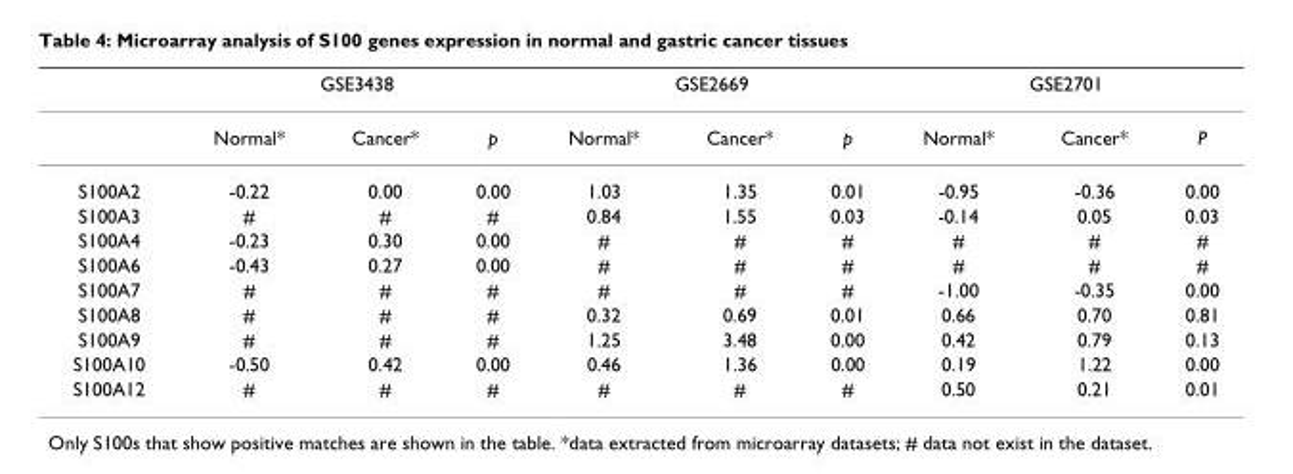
<table><thead><tr><td rowspan="2"></td><td colspan="3">GSE3438</td><td colspan="3">GSE2669</td><td colspan="3">GSE2701</td></tr><tr><td>Normal*</td><td>Cancer*</td><td>p</td><td>Normal*</td><td>Cancer*</td><td>p</td><td>Normal*</td><td>Cancer*</td><td>P</td></tr></thead><tbody><tr><td>S100A2</td><td>-0.22</td><td>0.00</td><td>0.00</td><td>1.03</td><td>1.35</td><td>0.01</td><td>-0.95</td><td>-0.36</td><td>0.00</td></tr><tr><td>S100A3</td><td>#</td><td>#</td><td>#</td><td>0.84</td><td>1.55</td><td>0.03</td><td>-0.14</td><td>0.05</td><td>0.03</td></tr><tr><td>S100A4</td><td>-0.23</td><td>0.30</td><td>0.00</td><td>#</td><td>#</td><td>#</td><td>#</td><td>#</td><td>#</td></tr><tr><td>S100A6</td><td>-0.43</td><td>0.27</td><td>0.00</td><td>#</td><td>#</td><td>#</td><td>#</td><td>#</td><td>#</td></tr><tr><td>S100A7</td><td>#</td><td>#</td><td>#</td><td>#</td><td>#</td><td>#</td><td>-1.00</td><td>-0.35</td><td>0.00</td></tr><tr><td>S100A8</td><td>#</td><td>#</td><td>#</td><td>0.32</td><td>0.69</td><td>0.01</td><td>0.66</td><td>0.70</td><td>0.81</td></tr><tr><td>S100A9</td><td>#</td><td>#</td><td>#</td><td>1.25</td><td>3.48</td><td>0.00</td><td>0.42</td><td>0.79</td><td>0.13</td></tr><tr><td>S100A10</td><td>-0.50</td><td>0.42</td><td>0.00</td><td>0.46</td><td>1.36</td><td>0.00</td><td>0.19</td><td>1.22</td><td>0.00</td></tr><tr><td>S100A12</td><td>#</td><td>#</td><td>#</td><td>#</td><td>#</td><td>#</td><td>0.50</td><td>0.21</td><td>0.01</td></tr></tbody></table>